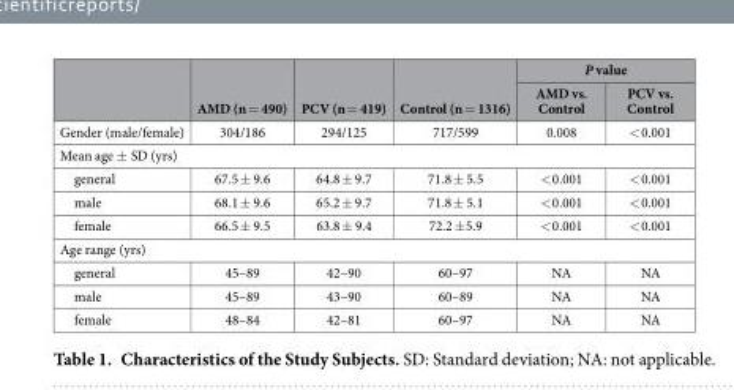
<table><thead><tr><td rowspan="2"></td><td rowspan="2">AMD (n = 490)</td><td rowspan="2">PCV (n = 419)</td><td rowspan="2">Control (n = 1316)</td><td colspan="2">P value</td></tr><tr><td>AMD vs. Control</td><td>PCV vs. Control</td></tr></thead><tbody><tr><td>Gender (male/female)</td><td>304/186</td><td>294/125</td><td>717/599</td><td>0.008</td><td>&lt; 0.001</td></tr><tr><td colspan="6">Mean age ± SD (yrs)</td></tr><tr><td>general</td><td>67.5 ± 9.6</td><td>64.8 ± 9.7</td><td>71.8 ± 5.5</td><td>&lt; 0.001</td><td>&lt; 0.001</td></tr><tr><td>male</td><td>68.1 ± 9.6</td><td>65.2 ± 9.7</td><td>71.8 ± 5.1</td><td>&lt; 0.001</td><td>&lt; 0.001</td></tr><tr><td>female</td><td>66.5 ± 9.5</td><td>63.8 ± 9.4</td><td>72.2 ± 5.9</td><td>&lt; 0.001</td><td>&lt; 0.001</td></tr><tr><td colspan="6">Age range (yrs)</td></tr><tr><td>general</td><td>45–89</td><td>42–90</td><td>60–97</td><td>NA</td><td>NA</td></tr><tr><td>male</td><td>45–89</td><td>43–90</td><td>60–89</td><td>NA</td><td>NA</td></tr><tr><td>female</td><td>48–84</td><td>42–81</td><td>60–97</td><td>NA</td><td>NA</td></tr></tbody></table>